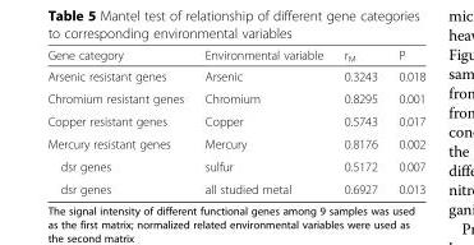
<table><thead><tr><td>Gene category</td><td>Environmental variable</td><td>r<sub>M</sub></td><td>P</td></tr></thead><tbody><tr><td>Arsenic resistant genes</td><td>Arsenic</td><td>0.3243</td><td>0.018</td></tr><tr><td>Chromium resistant genes</td><td>Chromium</td><td>0.8295</td><td>0.001</td></tr><tr><td>Copper resistant genes</td><td>Copper</td><td>0.5743</td><td>0.017</td></tr><tr><td>Mercury resistant genes</td><td>Mercury</td><td>0.8176</td><td>0.002</td></tr><tr><td>dsr genes</td><td>sulfur</td><td>0.5172</td><td>0.007</td></tr><tr><td>dsr genes</td><td>all studied metal</td><td>0.6927</td><td>0.013</td></tr></tbody></table>